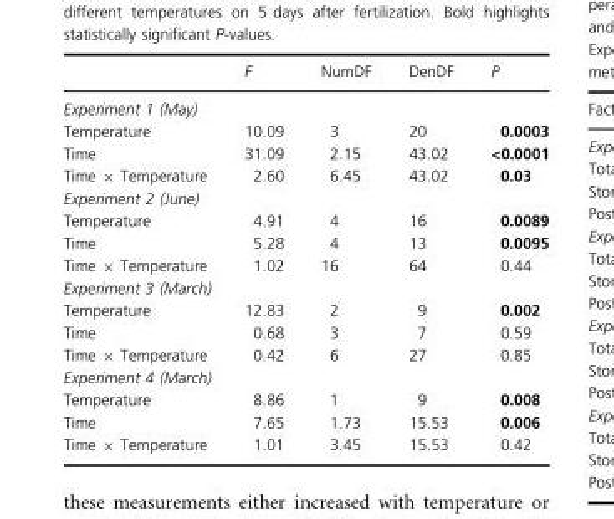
<table><thead><tr><td></td><td>F</td><td>NumDF</td><td>DenDF</td><td>P</td></tr></thead><tbody><tr><td colspan="5">Experiment 1 (May)</td></tr><tr><td>Temperature</td><td>10.09</td><td>3</td><td>20</td><td>0.0003</td></tr><tr><td>Time</td><td>31.09</td><td>2.15</td><td>43.02</td><td>&lt;0.0001</td></tr><tr><td>Time × Temperature</td><td>2.60</td><td>6.45</td><td>43.02</td><td>0.03</td></tr><tr><td colspan="5">Experiment 2 (June)</td></tr><tr><td>Temperature</td><td>4.91</td><td>4</td><td>16</td><td>0.0089</td></tr><tr><td>Time</td><td>5.28</td><td>4</td><td>13</td><td>0.0095</td></tr><tr><td>Time × Temperature</td><td>1.02</td><td>16</td><td>64</td><td>0.44</td></tr><tr><td colspan="5">Experiment 3 (March)</td></tr><tr><td>Temperature</td><td>12.83</td><td>2</td><td>9</td><td>0.002</td></tr><tr><td>Time</td><td>0.68</td><td>3</td><td>7</td><td>0.59</td></tr><tr><td>Time × Temperature</td><td>0.42</td><td>6</td><td>27</td><td>0.85</td></tr><tr><td colspan="5">Experiment 4 (March)</td></tr><tr><td>Temperature</td><td>8.86</td><td>1</td><td>9</td><td>0.008</td></tr><tr><td>Time</td><td>7.65</td><td>1.73</td><td>15.53</td><td>0.006</td></tr><tr><td>Time × Temperature</td><td>1.01</td><td>3.45</td><td>15.53</td><td>0.42</td></tr></tbody></table>